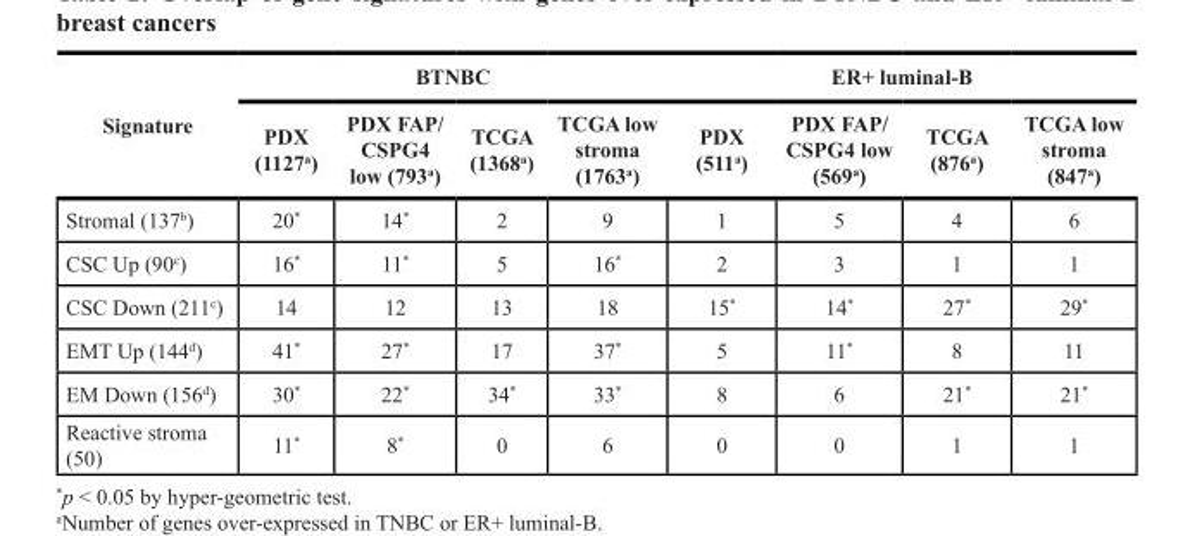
<table><thead><tr><td rowspan="2">Signature</td><td colspan="4">BTNBC</td><td colspan="4">ER+ luminal-B</td></tr><tr><td>PDX (1127<sup>a</sup>)</td><td>PDX FAP/ CSPG4 low (793<sup>a</sup>)</td><td>TCGA (1368<sup>a</sup>)</td><td>TCGA low stroma (1763<sup>a</sup>)</td><td>PDX (511<sup>a</sup>)</td><td>PDX FAP/ CSPG4 low (569<sup>a</sup>)</td><td>TCGA (876<sup>a</sup>)</td><td>TCGA low stroma (847<sup>a</sup>)</td></tr></thead><tbody><tr><td>Stromal (137<sup>b</sup>)</td><td>20*</td><td>14*</td><td>2</td><td>9</td><td>1</td><td>5</td><td>4</td><td>6</td></tr><tr><td>CSC Up (90<sup>c</sup>)</td><td>16*</td><td>11*</td><td>5</td><td>16*</td><td>2</td><td>3</td><td>1</td><td>1</td></tr><tr><td>CSC Down (211<sup>c</sup>)</td><td>14</td><td>12</td><td>13</td><td>18</td><td>15*</td><td>14*</td><td>27*</td><td>29*</td></tr><tr><td>EMT Up (144<sup>d</sup>)</td><td>41*</td><td>27*</td><td>17</td><td>37*</td><td>5</td><td>11*</td><td>8</td><td>11</td></tr><tr><td>EM Down (156<sup>d</sup>)</td><td>30*</td><td>22*</td><td>34*</td><td>33*</td><td>8</td><td>6</td><td>21*</td><td>21*</td></tr><tr><td>Reactive stroma (50)</td><td>11*</td><td>8*</td><td>0</td><td>6</td><td>0</td><td>0</td><td>1</td><td>1</td></tr></tbody></table>